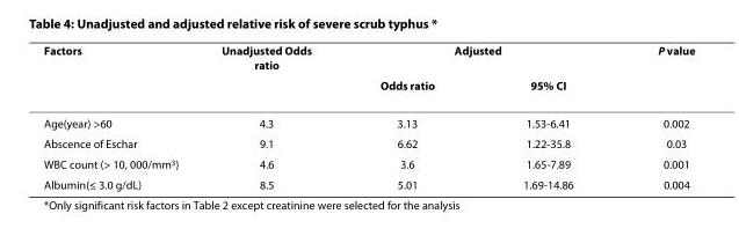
<table><thead><tr><td rowspan="2">Factors</td><td rowspan="2">Unadjusted Odds ratio</td><td colspan="2">Adjusted</td><td rowspan="2">P value</td></tr><tr><td>Odds ratio</td><td>95% CI</td></tr></thead><tbody><tr><td>Age(year) &gt;60</td><td>4.3</td><td>3.13</td><td>1.53-6.41</td><td>0.002</td></tr><tr><td>Abscence of Eschar</td><td>9.1</td><td>6.62</td><td>1.22-35.8</td><td>0.03</td></tr><tr><td>WBC count (&gt; 10, 000/mm<sup>3</sup>)</td><td>4.6</td><td>3.6</td><td>1.65-7.89</td><td>0.001</td></tr><tr><td>Albumin(≤ 3.0 g/dL)</td><td>8.5</td><td>5.01</td><td>1.69-14.86</td><td>0.004</td></tr></tbody></table>